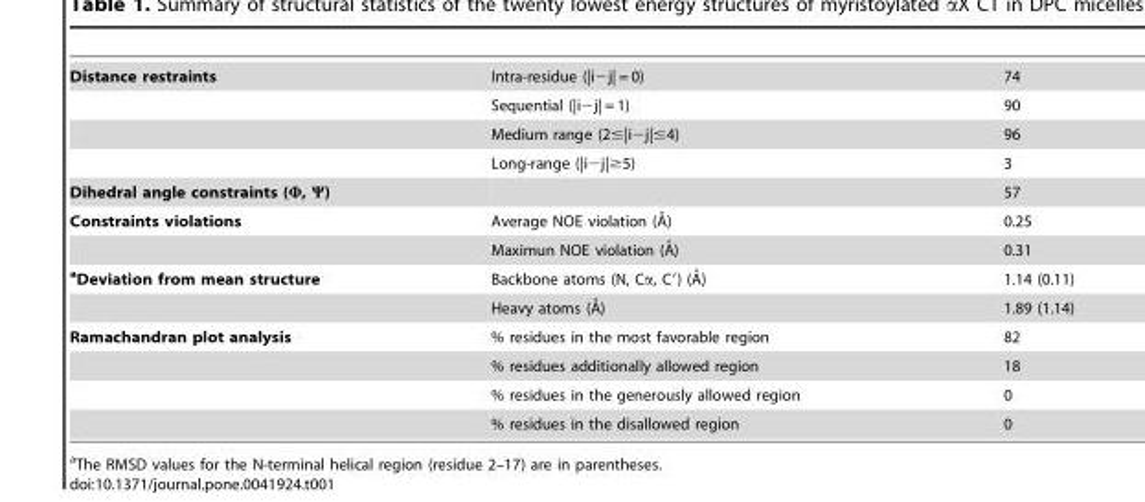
<table><tbody><tr><td rowspan="4">Distance restraints</td><td>Intra-residue (|i−j| = 0)</td><td>74</td></tr><tr><td>Sequential (|i−j| = 1)</td><td>90</td></tr><tr><td>Medium range (2≤|i−j|≤4)</td><td>96</td></tr><tr><td>Long-range (|i−j|≥5)</td><td>3</td></tr><tr><td>Dihedral angle constraints (Φ, Ψ)</td><td></td><td>57</td></tr><tr><td rowspan="2">Constraints violations</td><td>Average NOE violation (A˚)</td><td>0.25</td></tr><tr><td>Maximun NOE violation (A˚)</td><td>0.31</td></tr><tr><td rowspan="2">aDeviation from mean structure</td><td>Backbone atoms (N, Ca, C9) (A˚)</td><td>1.14 (0.11)</td></tr><tr><td>Heavy atoms (A˚)</td><td>1.89 (1.14)</td></tr><tr><td rowspan="4">Ramachandran plot analysis</td><td>% residues in the most favorable region</td><td>82</td></tr><tr><td>% residues additionally allowed region</td><td>18</td></tr><tr><td>% residues in the generously allowed region</td><td>0</td></tr><tr><td>% residues in the disallowed region</td><td>0</td></tr></tbody></table>